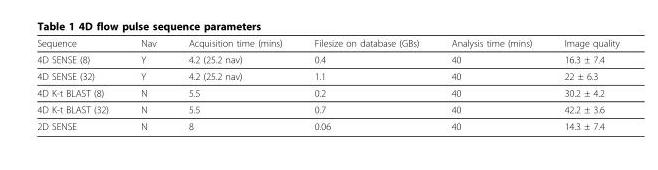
<table><thead><tr><td>Sequence</td><td>Nav</td><td>Acquisition time (mins)</td><td>Filesize on database (GBs)</td><td>Analysis time (mins)</td><td>Image quality</td></tr></thead><tbody><tr><td>4D SENSE (8)</td><td>Y</td><td>4.2 (25.2 nav)</td><td>0.4</td><td>40</td><td>16.3 ± 7.4</td></tr><tr><td>4D SENSE (32)</td><td>Y</td><td>4.2 (25.2 nav)</td><td>1.1</td><td>40</td><td>22 ± 6.3</td></tr><tr><td>4D K-t BLAST (8)</td><td>N</td><td>5.5</td><td>0.2</td><td>40</td><td>30.2 ± 4.2</td></tr><tr><td>4D K-t BLAST (32)</td><td>N</td><td>5.5</td><td>0.7</td><td>40</td><td>42.2 ± 3.6</td></tr><tr><td>2D SENSE</td><td>N</td><td>8</td><td>0.06</td><td>40</td><td>14.3 ± 7.4</td></tr></tbody></table>